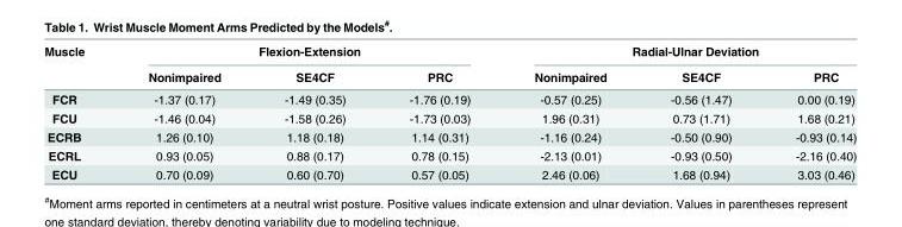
<table><thead><tr><td rowspan="2">Muscle</td><td colspan="3">Flexion-Extension</td><td colspan="3">Radial-Ulnar Deviation</td></tr><tr><td>Nonimpaired</td><td>SE4CF</td><td>PRC</td><td>Nonimpaired</td><td>SE4CF</td><td>PRC</td></tr></thead><tbody><tr><td>FCR</td><td>-1.37 (0.17)</td><td>-1.49 (0.35)</td><td>-1.76 (0.19)</td><td>-0.57 (0.25)</td><td>-0.56 (1.47)</td><td>0.00 (0.19)</td></tr><tr><td>FCU</td><td>-1.46 (0.04)</td><td>-1.58 (0.26)</td><td>-1.73 (0.03)</td><td>1.96 (0.31)</td><td>0.73 (1.71)</td><td>1.68 (0.21)</td></tr><tr><td>ECRB</td><td>1.26 (0.10)</td><td>1.18 (0.18)</td><td>1.14 (0.31)</td><td>-1.16 (0.24)</td><td>-0.50 (0.90)</td><td>-0.93 (0.14)</td></tr><tr><td>ECRL</td><td>0.93 (0.05)</td><td>0.88 (0.17)</td><td>0.78 (0.15)</td><td>-2.13 (0.01)</td><td>-0.93 (0.50)</td><td>-2.16 (0.40)</td></tr><tr><td>ECU</td><td>0.70 (0.09)</td><td>0.60 (0.70)</td><td>0.57 (0.05)</td><td>2.46 (0.06)</td><td>1.68 (0.94)</td><td>3.03 (0.46)</td></tr></tbody></table>